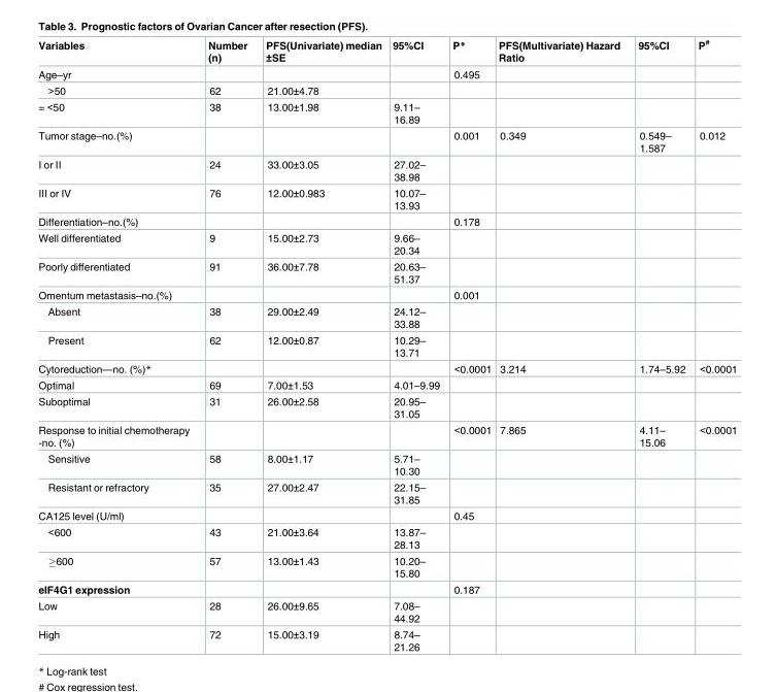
<table><thead><tr><td>Variables</td><td>Number (n)</td><td>PFS(Univariate) median ±SE</td><td>95%CI</td><td>P*</td><td>PFS(Multivariate) Hazard Ratio</td><td>95%CI</td><td>P<sup>#</sup></td></tr></thead><tbody><tr><td>Age–yr</td><td></td><td></td><td></td><td>0.495</td><td></td><td></td><td></td></tr><tr><td>&gt;50</td><td>62</td><td>21.00±4.78</td><td></td><td></td><td></td><td></td><td></td></tr><tr><td>= &lt;50</td><td>38</td><td>13.00±1.98</td><td>9.11– 16.89</td><td></td><td></td><td></td><td></td></tr><tr><td>Tumor stage–no.(%)</td><td></td><td></td><td></td><td>0.001</td><td>0.349</td><td>0.549– 1.587</td><td>0.012</td></tr><tr><td>I or II</td><td>24</td><td>33.00±3.05</td><td>27.02– 38.98</td><td></td><td></td><td></td><td></td></tr><tr><td>III or IV</td><td>76</td><td>12.00±0.983</td><td>10.07– 13.93</td><td></td><td></td><td></td><td></td></tr><tr><td>Differentiation–no.(%)</td><td></td><td></td><td></td><td>0.178</td><td></td><td></td><td></td></tr><tr><td>Well differentiated</td><td>9</td><td>15.00±2.73</td><td>9.66– 20.34</td><td></td><td></td><td></td><td></td></tr><tr><td>Poorly differentiated</td><td>91</td><td>36.00±7.78</td><td>20.63– 51.37</td><td></td><td></td><td></td><td></td></tr><tr><td>Omentum metastasis–no.(%)</td><td></td><td></td><td></td><td>0.001</td><td></td><td></td><td></td></tr><tr><td>Absent</td><td>38</td><td>29.00±2.49</td><td>24.12– 33.88</td><td></td><td></td><td></td><td></td></tr><tr><td>Present</td><td>62</td><td>12.00±0.87</td><td>10.29– 13.71</td><td></td><td></td><td></td><td></td></tr><tr><td>Cytoreduction—no. (%)*</td><td></td><td></td><td></td><td>&lt;0.0001</td><td>3.214</td><td>1.74–5.92</td><td>&lt;0.0001</td></tr><tr><td>Optimal</td><td>69</td><td>7.00±1.53</td><td>4.01–9.99</td><td></td><td></td><td></td><td></td></tr><tr><td>Suboptimal</td><td>31</td><td>26.00±2.58</td><td>20.95– 31.05</td><td></td><td></td><td></td><td></td></tr><tr><td>Response to initial chemotherapy -no. (%)</td><td></td><td></td><td></td><td>&lt;0.0001</td><td>7.865</td><td>4.11– 15.06</td><td>&lt;0.0001</td></tr><tr><td>Sensitive</td><td>58</td><td>8.00±1.17</td><td>5.71– 10.30</td><td></td><td></td><td></td><td></td></tr><tr><td>Resistant or refractory</td><td>35</td><td>27.00±2.47</td><td>22.15– 31.85</td><td></td><td></td><td></td><td></td></tr><tr><td>CA125 level (U/ml)</td><td></td><td></td><td></td><td>0.45</td><td></td><td></td><td></td></tr><tr><td>&lt;600</td><td>43</td><td>21.00±3.64</td><td>13.87– 28.13</td><td></td><td></td><td></td><td></td></tr><tr><td>≥600</td><td>57</td><td>13.00±1.43</td><td>10.20– 15.80</td><td></td><td></td><td></td><td></td></tr><tr><td>eIF4G1 expression</td><td></td><td></td><td></td><td>0.187</td><td></td><td></td><td></td></tr><tr><td>Low</td><td>28</td><td>26.00±9.65</td><td>7.08– 44.92</td><td></td><td></td><td></td><td></td></tr><tr><td>High</td><td>72</td><td>15.00±3.19</td><td>8.74– 21.26</td><td></td><td></td><td></td><td></td></tr></tbody></table>